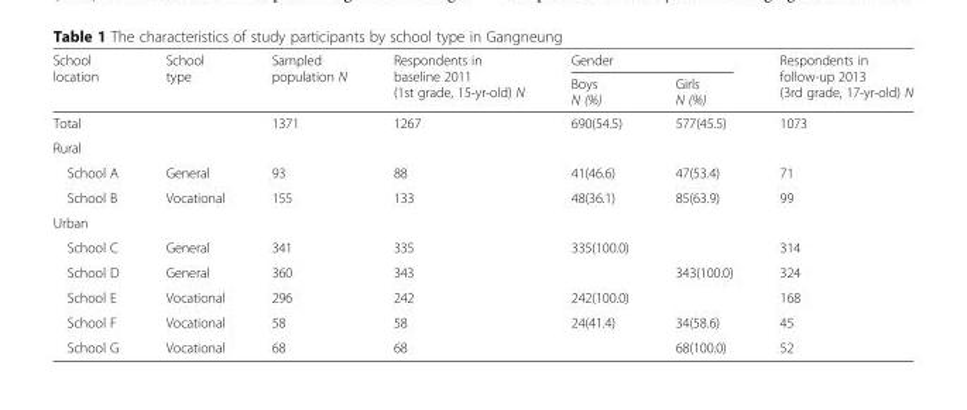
<table><thead><tr><td rowspan="2">School location</td><td rowspan="2">School type</td><td rowspan="2">Sampled population N</td><td rowspan="2">Respondents in baseline 2011 (1st grade, 15-yr-old) N</td><td colspan="2">Gender</td><td rowspan="2">Respondents in follow-up 2013 (3rd grade, 17-yr-old) N</td></tr><tr><td>Boys N (%)</td><td>Girls N (%)</td></tr></thead><tbody><tr><td>Total</td><td></td><td>1371</td><td>1267</td><td>690(54.5)</td><td>577(45.5)</td><td>1073</td></tr><tr><td colspan="7">Rural</td></tr><tr><td>School A</td><td>General</td><td>93</td><td>88</td><td>41(46.6)</td><td>47(53.4)</td><td>71</td></tr><tr><td>School B</td><td>Vocational</td><td>155</td><td>133</td><td>48(36.1)</td><td>85(63.9)</td><td>99</td></tr><tr><td colspan="7">Urban</td></tr><tr><td>School C</td><td>General</td><td>341</td><td>335</td><td>335(100.0)</td><td></td><td>314</td></tr><tr><td>School D</td><td>General</td><td>360</td><td>343</td><td></td><td>343(100.0)</td><td>324</td></tr><tr><td>School E</td><td>Vocational</td><td>296</td><td>242</td><td>242(100.0)</td><td></td><td>168</td></tr><tr><td>School F</td><td>Vocational</td><td>58</td><td>58</td><td>24(41.4)</td><td>34(58.6)</td><td>45</td></tr><tr><td>School G</td><td>Vocational</td><td>68</td><td>68</td><td></td><td>68(100.0)</td><td>52</td></tr></tbody></table>